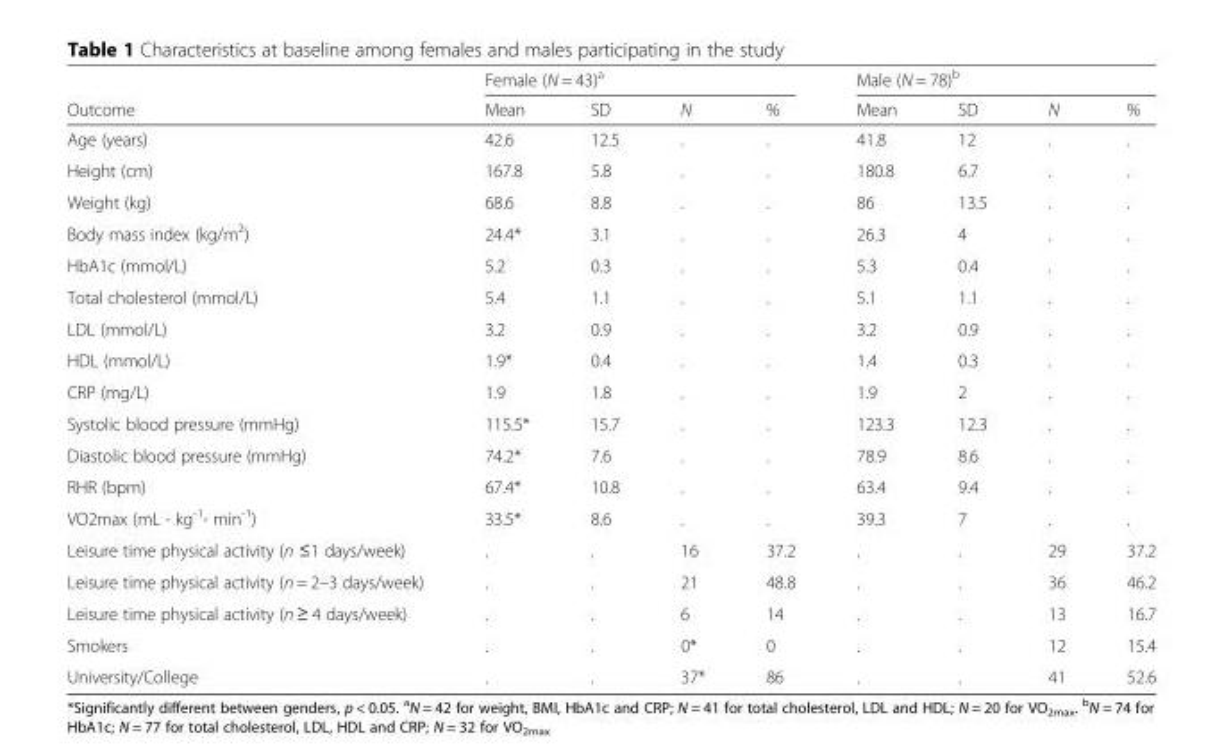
<table><thead><tr><td rowspan="2">Outcome</td><td colspan="4">Female (N = 43)<sup>a</sup></td><td colspan="4">Male (N = 78)<sup>b</sup></td></tr><tr><td>Mean</td><td>SD</td><td>N</td><td>%</td><td>Mean</td><td>SD</td><td>N</td><td>%</td></tr></thead><tbody><tr><td>Age (years)</td><td>42.6</td><td>12.5</td><td>.</td><td>.</td><td>41.8</td><td>12</td><td>.</td><td>.</td></tr><tr><td>Height (cm)</td><td>167.8</td><td>5.8</td><td>.</td><td>.</td><td>180.8</td><td>6.7</td><td>.</td><td>.</td></tr><tr><td>Weight (kg)</td><td>68.6</td><td>8.8</td><td>.</td><td>.</td><td>86</td><td>13.5</td><td>.</td><td>.</td></tr><tr><td>Body mass index (kg/m<sup>2</sup>)</td><td>24.4*</td><td>3.1</td><td>.</td><td>.</td><td>26.3</td><td>4</td><td>.</td><td>.</td></tr><tr><td>HbA1c (mmol/L)</td><td>5.2</td><td>0.3</td><td>.</td><td>.</td><td>5.3</td><td>0.4</td><td>.</td><td>.</td></tr><tr><td>Total cholesterol (mmol/L)</td><td>5.4</td><td>1.1</td><td>.</td><td>.</td><td>5.1</td><td>1.1</td><td>.</td><td>.</td></tr><tr><td>LDL (mmol/L)</td><td>3.2</td><td>0.9</td><td>.</td><td>.</td><td>3.2</td><td>0.9</td><td>.</td><td>.</td></tr><tr><td>HDL (mmol/L)</td><td>1.9*</td><td>0.4</td><td>.</td><td>.</td><td>1.4</td><td>0.3</td><td>.</td><td>.</td></tr><tr><td>CRP (mg/L)</td><td>1.9</td><td>1.8</td><td>.</td><td>.</td><td>1.9</td><td>2</td><td>.</td><td>.</td></tr><tr><td>Systolic blood pressure (mmHg)</td><td>115.5*</td><td>15.7</td><td>.</td><td>.</td><td>123.3</td><td>12.3</td><td>.</td><td>.</td></tr><tr><td>Diastolic blood pressure (mmHg)</td><td>74.2*</td><td>7.6</td><td>.</td><td>.</td><td>78.9</td><td>8.6</td><td>.</td><td>.</td></tr><tr><td>RHR (bpm)</td><td>67.4*</td><td>10.8</td><td>.</td><td>.</td><td>63.4</td><td>9.4</td><td>.</td><td>.</td></tr><tr><td>VO2max (mL ∙ kg<sup>-1</sup>∙ min<sup>-1</sup>)</td><td>33.5*</td><td>8.6</td><td>.</td><td>.</td><td>39.3</td><td>7</td><td>.</td><td>.</td></tr><tr><td>Leisure time physical activity (n ≤1 days/week)</td><td>.</td><td>.</td><td>16</td><td>37.2</td><td>.</td><td>.</td><td>29</td><td>37.2</td></tr><tr><td>Leisure time physical activity (n = 2–3 days/week)</td><td>.</td><td>.</td><td>21</td><td>48.8</td><td>.</td><td>.</td><td>36</td><td>46.2</td></tr><tr><td>Leisure time physical activity (n ≥ 4 days/week)</td><td>.</td><td>.</td><td>6</td><td>14</td><td>.</td><td>.</td><td>13</td><td>16.7</td></tr><tr><td>Smokers</td><td>.</td><td>.</td><td>0*</td><td>0</td><td>.</td><td>.</td><td>12</td><td>15.4</td></tr><tr><td>University/College</td><td>.</td><td>.</td><td>37*</td><td>86</td><td>.</td><td>.</td><td>41</td><td>52.6</td></tr></tbody></table>